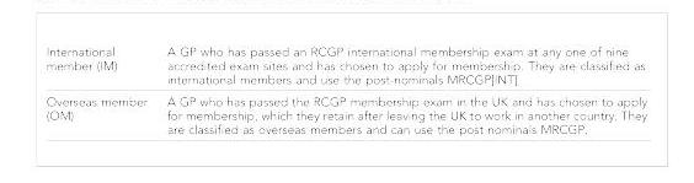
<table><tbody><tr><td>International member (IM)</td><td>A GP who has passed an RCGP international membership exam at any one of nine accredited exam sites and has chosen to apply for membership. They are classified as international members and use the post-nominals MRCGP[INT].</td></tr><tr><td>Overseas member (OM)</td><td>A GP who has passed the RCGP membership exam in the UK and has chosen to apply for membership, which they retain after leaving the UK to work in another country. They are classified as overseas members and can use the post nominals MRCGP.</td></tr></tbody></table>